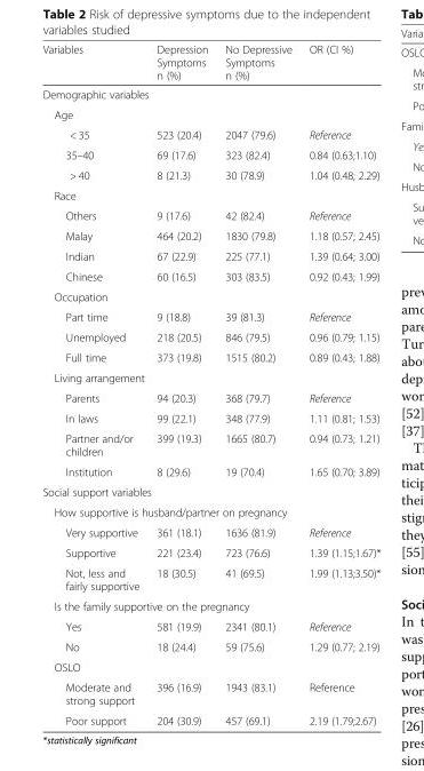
<table><thead><tr><td>Variables</td><td>Depression Symptoms n (%)</td><td>No Depressive Symptoms n (%)</td><td>OR (CI %)</td></tr></thead><tbody><tr><td colspan="4">Demographic variables</td></tr><tr><td colspan="4">Age</td></tr><tr><td>&lt; 35</td><td>523 (20.4)</td><td>2047 (79.6)</td><td>Reference</td></tr><tr><td>35–40</td><td>69 (17.6)</td><td>323 (82.4)</td><td>0.84 (0.63;1.10)</td></tr><tr><td>&gt; 40</td><td>8 (21.3)</td><td>30 (78.9)</td><td>1.04 (0.48; 2.29)</td></tr><tr><td colspan="4">Race</td></tr><tr><td>Others</td><td>9 (17.6)</td><td>42 (82.4)</td><td>Reference</td></tr><tr><td>Malay</td><td>464 (20.2)</td><td>1830 (79.8)</td><td>1.18 (0.57; 2.45)</td></tr><tr><td>Indian</td><td>67 (22.9)</td><td>225 (77.1)</td><td>1.39 (0.64; 3.00)</td></tr><tr><td>Chinese</td><td>60 (16.5)</td><td>303 (83.5)</td><td>0.92 (0.43; 1.99)</td></tr><tr><td colspan="4">Occupation</td></tr><tr><td>Part time</td><td>9 (18.8)</td><td>39 (81.3)</td><td>Reference</td></tr><tr><td>Unemployed</td><td>218 (20.5)</td><td>846 (79.5)</td><td>0.96 (0.79; 1.15)</td></tr><tr><td>Full time</td><td>373 (19.8)</td><td>1515 (80.2)</td><td>0.89 (0.43; 1.88)</td></tr><tr><td colspan="4">Living arrangement</td></tr><tr><td>Parents</td><td>94 (20.3)</td><td>368 (79.7)</td><td>Reference</td></tr><tr><td>In laws</td><td>99 (22.1)</td><td>348 (77.9)</td><td>1.11 (0.81; 1.53)</td></tr><tr><td>Partner and/or children</td><td>399 (19.3)</td><td>1665 (80.7)</td><td>0.94 (0.73; 1.21)</td></tr><tr><td>Institution</td><td>8 (29.6)</td><td>19 (70.4)</td><td>1.65 (0.70; 3.89)</td></tr><tr><td colspan="4">Social support variables</td></tr><tr><td colspan="4">How supportive is husband/partner on pregnancy</td></tr><tr><td>Very supportive</td><td>361 (18.1)</td><td>1636 (81.9)</td><td>Reference</td></tr><tr><td>Supportive</td><td>221 (23.4)</td><td>723 (76.6)</td><td>1.39 (1.15;1.67)*</td></tr><tr><td>Not, less and fairly supportive</td><td>18 (30.5)</td><td>41 (69.5)</td><td>1.99 (1.13;3.50)*</td></tr><tr><td colspan="4">Is the family supportive on the pregnancy</td></tr><tr><td>Yes</td><td>581 (19.9)</td><td>2341 (80.1)</td><td>Reference</td></tr><tr><td>No</td><td>18 (24.4)</td><td>59 (75.6)</td><td>1.29 (0.77; 2.19)</td></tr><tr><td colspan="4">OSLO</td></tr><tr><td>Moderate and strong support</td><td>396 (16.9)</td><td>1943 (83.1)</td><td>Reference</td></tr><tr><td>Poor support</td><td>204 (30.9)</td><td>457 (69.1)</td><td>2.19 (1.79;2.67)</td></tr></tbody></table>